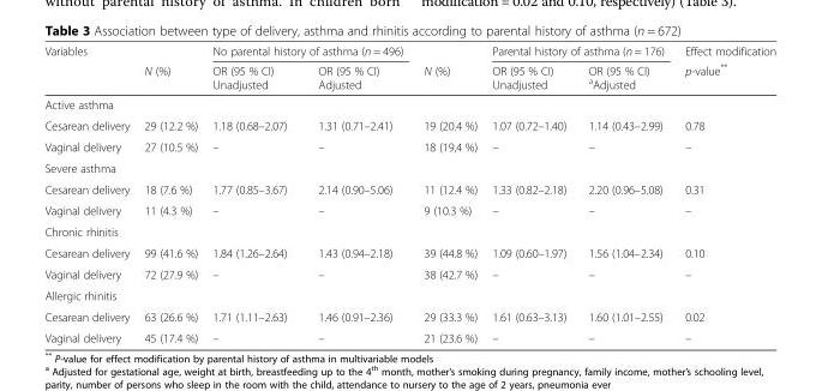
<table><thead><tr><td rowspan="2">Variables</td><td rowspan="2">N (%)</td><td colspan="2">No parental history of asthma (n = 496)</td><td rowspan="2">N (%)</td><td colspan="2">Parental history of asthma (n = 176)</td><td rowspan="2">Effect modification p-value**</td></tr><tr><td>OR (95 % CI) Unadjusted</td><td>OR (95 % CI) Adjusted</td><td>OR (95 % CI) Unadjusted</td><td>OR (95 % CI) <sup>a</sup>Adjusted</td></tr></thead><tbody><tr><td colspan="8">Active asthma</td></tr><tr><td>Cesarean delivery</td><td>29 (12.2 %)</td><td>1.18 (0.68–2.07)</td><td>1.31 (0.71–2.41)</td><td>19 (20.4 %)</td><td>1.07 (0.72–1.40)</td><td>1.14 (0.43–2.99)</td><td>0.78</td></tr><tr><td>Vaginal delivery</td><td>27 (10.5 %)</td><td>–</td><td>–</td><td>18 (19,4 %)</td><td>–</td><td>–</td><td>–</td></tr><tr><td colspan="8">Severe asthma</td></tr><tr><td>Cesarean delivery</td><td>18 (7.6 %)</td><td>1.77 (0.85–3.67)</td><td>2.14 (0.90–5.06)</td><td>11 (12.4 %)</td><td>1.33 (0.82–2.18)</td><td>2.20 (0.96–5.08)</td><td>0.31</td></tr><tr><td>Vaginal delivery</td><td>11 (4.3 %)</td><td>–</td><td>–</td><td>9 (10.3 %)</td><td>–</td><td>–</td><td>–</td></tr><tr><td colspan="8">Chronic rhinitis</td></tr><tr><td>Cesarean delivery</td><td>99 (41.6 %)</td><td>1.84 (1.26–2.64)</td><td>1.43 (0.94–2.18)</td><td>39 (44.8 %)</td><td>1.09 (0.60–1.97)</td><td>1.56 (1.04–2.34)</td><td>0.10</td></tr><tr><td>Vaginal delivery</td><td>72 (27.9 %)</td><td>–</td><td>–</td><td>38 (42.7 %)</td><td>–</td><td>–</td><td>–</td></tr><tr><td colspan="8">Allergic rhinitis</td></tr><tr><td>Cesarean delivery</td><td>63 (26.6 %)</td><td>1.71 (1.11–2.63)</td><td>1.46 (0.91–2.36)</td><td>29 (33.3 %)</td><td>1.61 (0.63–3.13)</td><td>1.60 (1.01–2.55)</td><td>0.02</td></tr><tr><td>Vaginal delivery</td><td>45 (17.4 %)</td><td>–</td><td>–</td><td>21 (23.6 %)</td><td>–</td><td>–</td><td>–</td></tr></tbody></table>